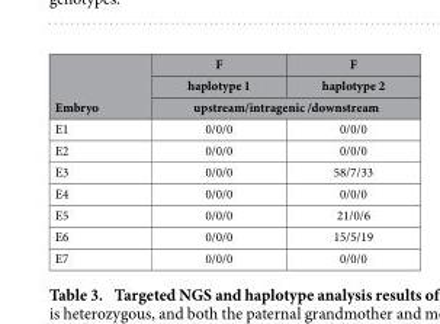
<table><thead><tr><td rowspan="3">Embryo</td><td rowspan="2">F haplotype 1</td><td rowspan="2">F haplotype 2</td></tr><tr></tr><tr><td colspan="2">upstream/intragenic /downstream</td></tr></thead><tbody><tr><td>E1</td><td>0/0/0</td><td>0/0/0</td></tr><tr><td>E2</td><td>0/0/0</td><td>0/0/0</td></tr><tr><td>E3</td><td>0/0/0</td><td>58/7/33</td></tr><tr><td>E4</td><td>0/0/0</td><td>0/0/0</td></tr><tr><td>E5</td><td>0/0/0</td><td>21/0/6</td></tr><tr><td>E6</td><td>0/0/0</td><td>15/5/19</td></tr><tr><td>E7</td><td>0/0/0</td><td>0/0/0</td></tr></tbody></table>